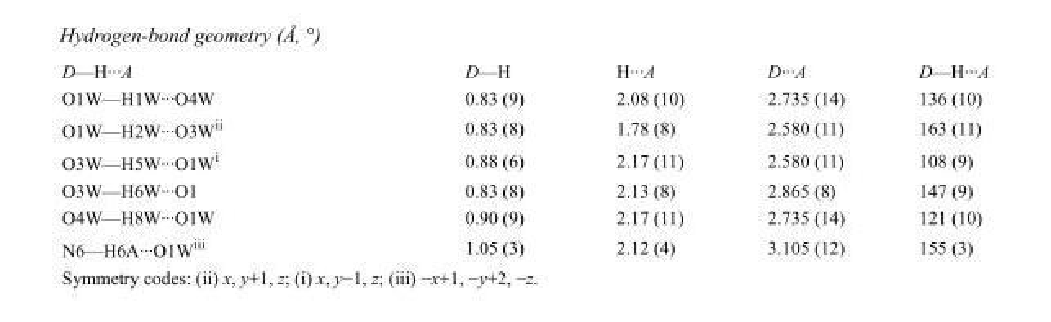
<table><tbody><tr><td>D—H···A</td><td>D—H</td><td>H···A</td><td>D···A</td><td>D—H···A</td></tr><tr><td>O1W—H1W···O4W</td><td>0.83 (9)</td><td>2.08 (10)</td><td>2.735 (14)</td><td>136 (10)</td></tr><tr><td>O1W—H2W···O3W<sup>ii</sup></td><td>0.83 (8)</td><td>1.78 (8)</td><td>2.580 (11)</td><td>163 (11)</td></tr><tr><td>O3W—H5W···O1W<sup>i</sup></td><td>0.88 (6)</td><td>2.17 (11)</td><td>2.580 (11)</td><td>108 (9)</td></tr><tr><td>O3W—H6W···O1</td><td>0.83 (8)</td><td>2.13 (8)</td><td>2.865 (8)</td><td>147 (9)</td></tr><tr><td>O4W—H8W···O1W</td><td>0.90 (9)</td><td>2.17 (11)</td><td>2.735 (14)</td><td>121 (10)</td></tr><tr><td>N6—H6A···O1W<sup>iii</sup></td><td>1.05 (3)</td><td>2.12 (4)</td><td>3.105 (12)</td><td>155 (3)</td></tr></tbody></table>